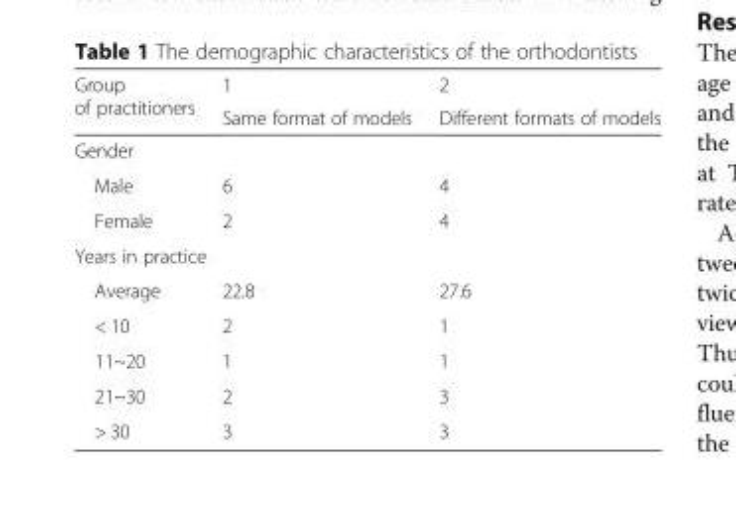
<table><thead><tr><td rowspan="2">Group of practitioners</td><td rowspan="2">1 Same format of models</td><td rowspan="2">2 Different formats of models</td></tr><tr></tr></thead><tbody><tr><td colspan="3">Gender</td></tr><tr><td>Male</td><td>6</td><td>4</td></tr><tr><td>Female</td><td>2</td><td>4</td></tr><tr><td colspan="3">Years in practice</td></tr><tr><td>Average</td><td>22.8</td><td>27.6</td></tr><tr><td>&lt; 10</td><td>2</td><td>1</td></tr><tr><td>11~20</td><td>1</td><td>1</td></tr><tr><td>21~30</td><td>2</td><td>3</td></tr><tr><td>&gt; 30</td><td>3</td><td>3</td></tr></tbody></table>